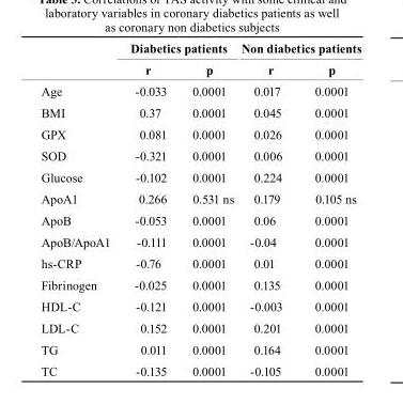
<table><thead><tr><td rowspan="2"></td><td colspan="2">diabetics patients</td><td colspan="2">non diabetics patients</td></tr><tr><td>r</td><td>p</td><td>r</td><td>p</td></tr></thead><tbody><tr><td>Age</td><td>-0.033</td><td>0.0001</td><td>0.017</td><td>0.0001</td></tr><tr><td>BMI</td><td>0.37</td><td>0.0001</td><td>0.045</td><td>0.0001</td></tr><tr><td>GPX</td><td>0.081</td><td>0.0001</td><td>0.026</td><td>0.0001</td></tr><tr><td>SOD</td><td>-0.321</td><td>0.0001</td><td>0.006</td><td>0.0001</td></tr><tr><td>Glucose</td><td>-0.102</td><td>0.0001</td><td>0.224</td><td>0.0001</td></tr><tr><td>ApoA1</td><td>0.266</td><td>0.531 ns</td><td>0.179</td><td>0.105 ns</td></tr><tr><td>ApoB</td><td>-0.053</td><td>0.0001</td><td>0.06</td><td>0.0001</td></tr><tr><td>ApoB/ApoA1</td><td>-0.111</td><td>0.0001</td><td>-0.04</td><td>0.0001</td></tr><tr><td>hs-CRP</td><td>-0.76</td><td>0.0001</td><td>0.01</td><td>0.0001</td></tr><tr><td>Fibrinogen</td><td>-0.025</td><td>0.0001</td><td>0.135</td><td>0.0001</td></tr><tr><td>HDL-C</td><td>-0.121</td><td>0.0001</td><td>-0.003</td><td>0.0001</td></tr><tr><td>LDL-C</td><td>0.152</td><td>0.0001</td><td>0.201</td><td>0.0001</td></tr><tr><td>TG</td><td>0.011</td><td>0.0001</td><td>0.164</td><td>0.0001</td></tr><tr><td>TC</td><td>-0.135</td><td>0.0001</td><td>-0.105</td><td>0.0001</td></tr></tbody></table>